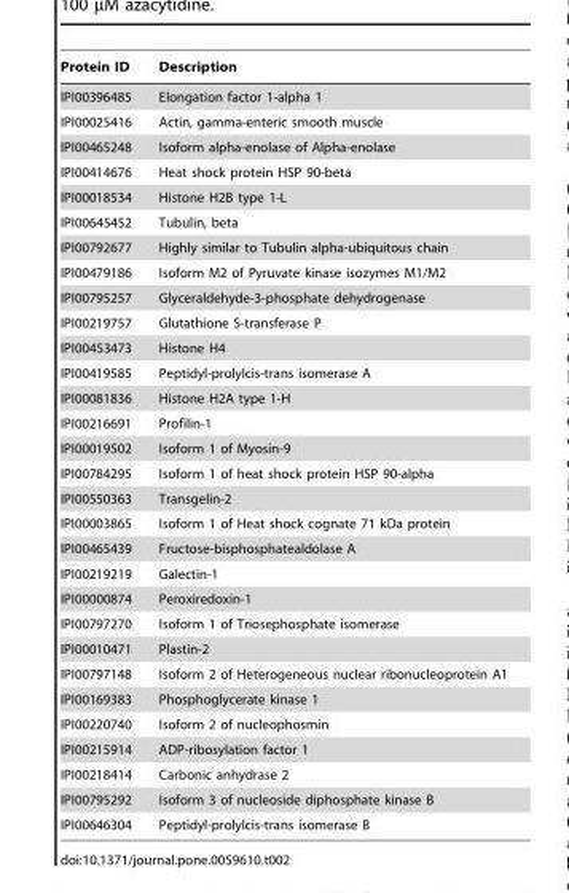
<table><thead><tr><td>Protein ID</td><td>Description</td></tr></thead><tbody><tr><td>IPI00396485</td><td>Elongation factor 1-alpha 1</td></tr><tr><td>IPI00025416</td><td>Actin, gamma-enteric smooth muscle</td></tr><tr><td>IPI00465248</td><td>Isoform alpha-enolase of Alpha-enolase</td></tr><tr><td>IPI00414676</td><td>Heat shock protein HSP 90-beta</td></tr><tr><td>IPI00018534</td><td>Histone H2B type 1-L</td></tr><tr><td>IPI00645452</td><td>Tubulin, beta</td></tr><tr><td>IPI00792677</td><td>Highly similar to Tubulin alpha-ubiquitous chain</td></tr><tr><td>IPI00479186</td><td>Isoform M2 of Pyruvate kinase isozymes M1/M2</td></tr><tr><td>IPI00795257</td><td>Glyceraldehyde-3-phosphate dehydrogenase</td></tr><tr><td>IPI00219757</td><td>Glutathione S-transferase P</td></tr><tr><td>IPI00453473</td><td>Histone H4</td></tr><tr><td>IPI00419585</td><td>Peptidyl-prolylcis-trans isomerase A</td></tr><tr><td>IPI00081836</td><td>Histone H2A type 1-H</td></tr><tr><td>IPI00216691</td><td>Profilin-1</td></tr><tr><td>IPI00019502</td><td>Isoform 1 of Myosin-9</td></tr><tr><td>IPI00784295</td><td>Isoform 1 of heat shock protein HSP 90-alpha</td></tr><tr><td>IPI00550363</td><td>Transgelin-2</td></tr><tr><td>IPI00003865</td><td>Isoform 1 of Heat shock cognate 71 kDa protein</td></tr><tr><td>IPI00465439</td><td>Fructose-bisphosphatealdolase A</td></tr><tr><td>IPI00219219</td><td>Galectin-1</td></tr><tr><td>IPI00000874</td><td>Peroxiredoxin-1</td></tr><tr><td>IPI00797270</td><td>Isoform 1 of Triosephosphate isomerase</td></tr><tr><td>IPI00010471</td><td>Plastin-2</td></tr><tr><td>IPI00797148</td><td>Isoform 2 of Heterogeneous nuclear ribonucleoprotein A1</td></tr><tr><td>IPI00169383</td><td>Phosphoglycerate kinase 1</td></tr><tr><td>IPI00220740</td><td>Isoform 2 of nucleophosmin</td></tr><tr><td>IPI00215914</td><td>ADP-ribosylation factor 1</td></tr><tr><td>IPI00218414</td><td>Carbonic anhydrase 2</td></tr><tr><td>IPI00795292</td><td>Isoform 3 of nucleoside diphosphate kinase B</td></tr><tr><td>IPI00646304</td><td>Peptidyl-prolylcis-trans isomerase B</td></tr></tbody></table>